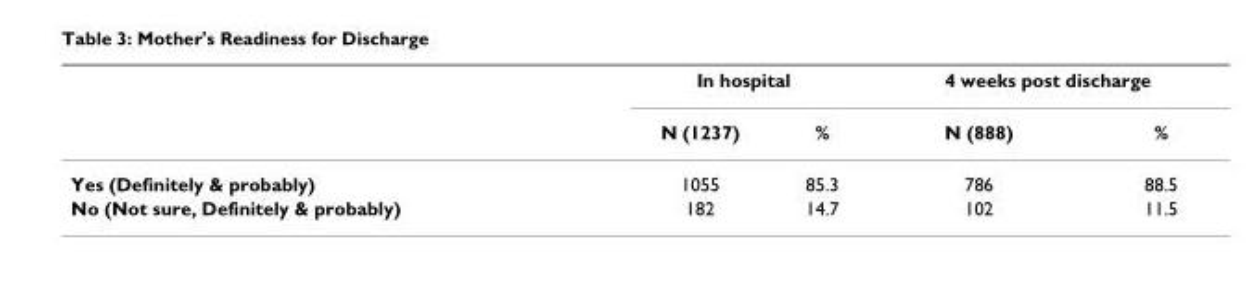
<table><thead><tr><td rowspan="2"></td><td colspan="2">In hospital</td><td colspan="2">4 weeks post discharge</td></tr><tr><td>N (1237)</td><td>%</td><td>N (888)</td><td>%</td></tr></thead><tbody><tr><td>Yes (Definitely &amp; probably)</td><td>1055</td><td>85.3</td><td>786</td><td>88.5</td></tr><tr><td>No (Not sure, Definitely &amp; probably)</td><td>182</td><td>14.7</td><td>102</td><td>11.5</td></tr></tbody></table>